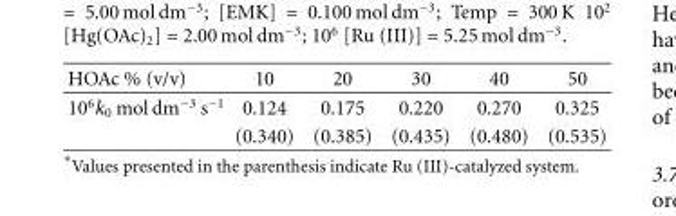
<table><thead><tr><td>HOAc % (v/v)</td><td>10</td><td>20</td><td>30</td><td>40</td><td>50</td></tr></thead><tbody><tr><td rowspan="2">10<sup>6</sup>k<sub>0</sub> mol dm<sup>−3</sup> s<sup>−1</sup></td><td>0.124</td><td>0.175</td><td>0.220</td><td>0.270</td><td>0.325</td></tr><tr><td>(0.340)</td><td>(0.385)</td><td>(0.435)</td><td>(0.480)</td><td>(0.535)</td></tr></tbody></table>